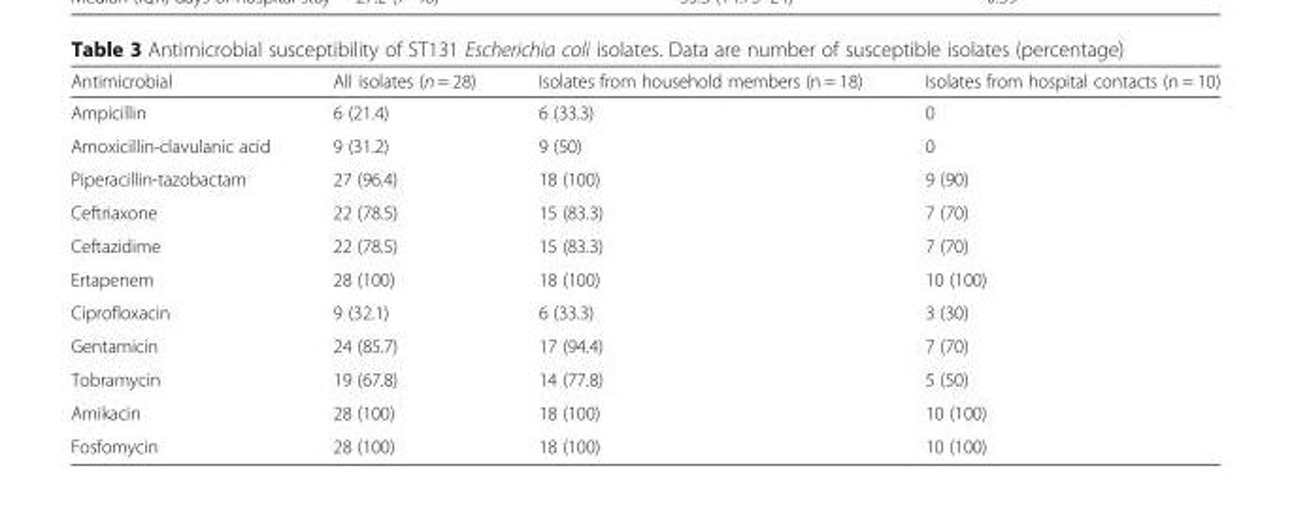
<table><thead><tr><td>Antimicrobial</td><td>All isolates (n = 28)</td><td>Isolates from household members (n = 18)</td><td>Isolates from hospital contacts (n = 10)</td></tr></thead><tbody><tr><td>Ampicillin</td><td>6 (21.4)</td><td>6 (33.3)</td><td>0</td></tr><tr><td>Amoxicillin-clavulanic acid</td><td>9 (31.2)</td><td>9 (50)</td><td>0</td></tr><tr><td>Piperacillin-tazobactam</td><td>27 (96.4)</td><td>18 (100)</td><td>9 (90)</td></tr><tr><td>Ceftriaxone</td><td>22 (78.5)</td><td>15 (83.3)</td><td>7 (70)</td></tr><tr><td>Ceftazidime</td><td>22 (78.5)</td><td>15 (83.3)</td><td>7 (70)</td></tr><tr><td>Ertapenem</td><td>28 (100)</td><td>18 (100)</td><td>10 (100)</td></tr><tr><td>Ciprofloxacin</td><td>9 (32.1)</td><td>6 (33.3)</td><td>3 (30)</td></tr><tr><td>Gentamicin</td><td>24 (85.7)</td><td>17 (94.4)</td><td>7 (70)</td></tr><tr><td>Tobramycin</td><td>19 (67.8)</td><td>14 (77.8)</td><td>5 (50)</td></tr><tr><td>Amikacin</td><td>28 (100)</td><td>18 (100)</td><td>10 (100)</td></tr><tr><td>Fosfomycin</td><td>28 (100)</td><td>18 (100)</td><td>10 (100)</td></tr></tbody></table>